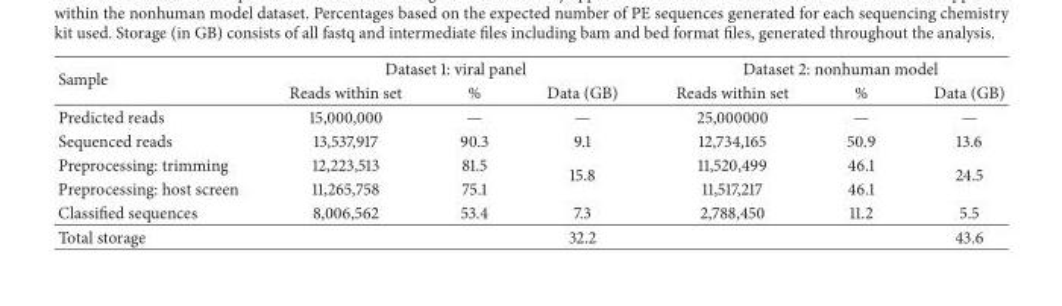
<table><thead><tr><td rowspan="2">Sample</td><td colspan="3">Dataset 1: viral panel</td><td colspan="3">Dataset 2: nonhuman model</td></tr><tr><td>Reads within set</td><td>%</td><td>Data (GB)</td><td>Reads within set</td><td>%</td><td>Data (GB)</td></tr></thead><tbody><tr><td>Predicted reads</td><td>15,000,000</td><td>—</td><td>—</td><td>25,000000</td><td>—</td><td>—</td></tr><tr><td>Sequenced reads</td><td>13,537,917</td><td>90.3</td><td>9.1</td><td>12,734,165</td><td>50.9</td><td>13.6</td></tr><tr><td>Preprocessing: trimming</td><td>12,223,513</td><td>81.5</td><td rowspan="2">15.8</td><td>11,520,499</td><td>46.1</td><td rowspan="2">24.5</td></tr><tr><td>Preprocessing: host screen</td><td>11,265,758</td><td>75.1</td><td>11,517,217</td><td>46.1</td></tr><tr><td>Classified sequences</td><td>8,006,562</td><td>53.4</td><td>7.3</td><td>2,788,450</td><td>11.2</td><td>5.5</td></tr><tr><td>Total storage</td><td></td><td></td><td>32.2</td><td></td><td></td><td>43.6</td></tr></tbody></table>